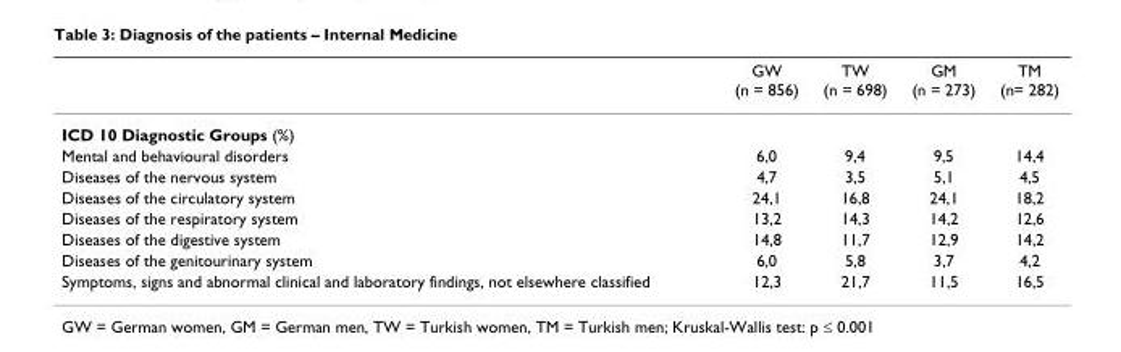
<table><thead><tr><td></td><td>GW (n = 856)</td><td>TW (n = 698)</td><td>GM (n = 273)</td><td>TM (n= 282)</td></tr></thead><tbody><tr><td colspan="5">ICD 10 Diagnostic Groups (%)</td></tr><tr><td>Mental and behavioural disorders</td><td>6,0</td><td>9,4</td><td>9,5</td><td>14,4</td></tr><tr><td>Diseases of the nervous system</td><td>4,7</td><td>3,5</td><td>5,1</td><td>4,5</td></tr><tr><td>Diseases of the circulatory system</td><td>24,1</td><td>16,8</td><td>24,1</td><td>18,2</td></tr><tr><td>Diseases of the respiratory system</td><td>13,2</td><td>14,3</td><td>14,2</td><td>12,6</td></tr><tr><td>Diseases of the digestive system</td><td>14,8</td><td>11,7</td><td>12,9</td><td>14,2</td></tr><tr><td>Diseases of the genitourinary system</td><td>6,0</td><td>5,8</td><td>3,7</td><td>4,2</td></tr><tr><td>Symptoms, signs and abnormal clinical and laboratory findings, not elsewhere classified</td><td>12,3</td><td>21,7</td><td>11,5</td><td>16,5</td></tr></tbody></table>